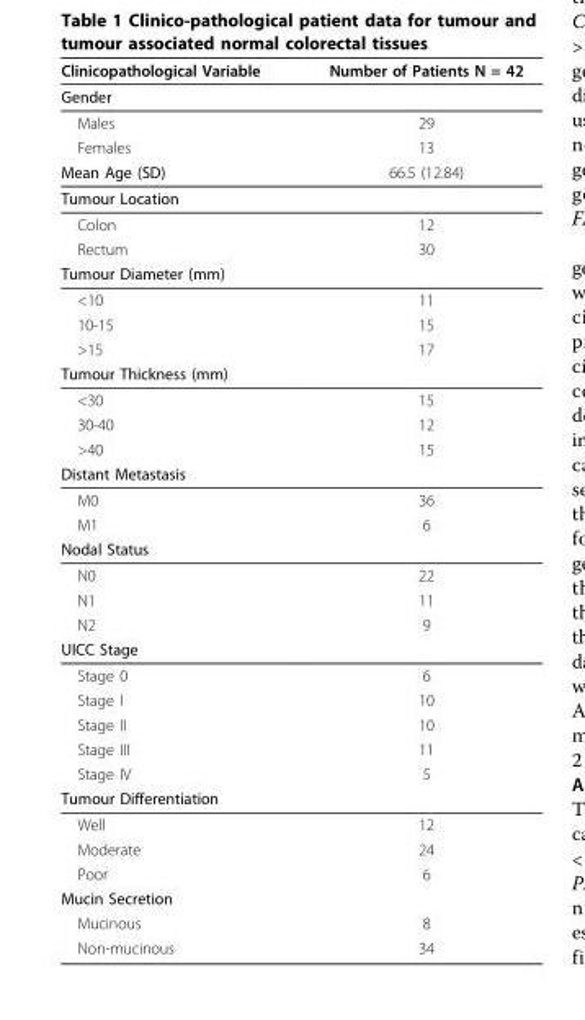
<table><thead><tr><td>Clinicopathological Variable</td><td>Number of Patients N = 42</td></tr></thead><tbody><tr><td colspan="2">Gender</td></tr><tr><td>Males</td><td>29</td></tr><tr><td>Females</td><td>13</td></tr><tr><td>Mean Age (SD)</td><td>66.5 (12.84)</td></tr><tr><td colspan="2">Tumour Location</td></tr><tr><td>Colon</td><td>12</td></tr><tr><td>Rectum</td><td>30</td></tr><tr><td colspan="2">Tumour Diameter (mm)</td></tr><tr><td>&lt;10</td><td>11</td></tr><tr><td>10-15</td><td>15</td></tr><tr><td>&gt;15</td><td>17</td></tr><tr><td colspan="2">Tumour Thickness (mm)</td></tr><tr><td>&lt;30</td><td>15</td></tr><tr><td>30-40</td><td>12</td></tr><tr><td>&gt;40</td><td>15</td></tr><tr><td colspan="2">Distant Metastasis</td></tr><tr><td>M0</td><td>36</td></tr><tr><td>M1</td><td>6</td></tr><tr><td colspan="2">Nodal Status</td></tr><tr><td>N0</td><td>22</td></tr><tr><td>N1</td><td>11</td></tr><tr><td>N2</td><td>9</td></tr><tr><td colspan="2">UICC Stage</td></tr><tr><td>Stage 0</td><td>6</td></tr><tr><td>Stage I</td><td>10</td></tr><tr><td>Stage II</td><td>10</td></tr><tr><td>Stage III</td><td>11</td></tr><tr><td>Stage IV</td><td>5</td></tr><tr><td colspan="2">Tumour Differentiation</td></tr><tr><td>Well</td><td>12</td></tr><tr><td>Moderate</td><td>24</td></tr><tr><td>Poor</td><td>6</td></tr><tr><td colspan="2">Mucin Secretion</td></tr><tr><td>Mucinous</td><td>8</td></tr><tr><td>Non-mucinous</td><td>34</td></tr></tbody></table>